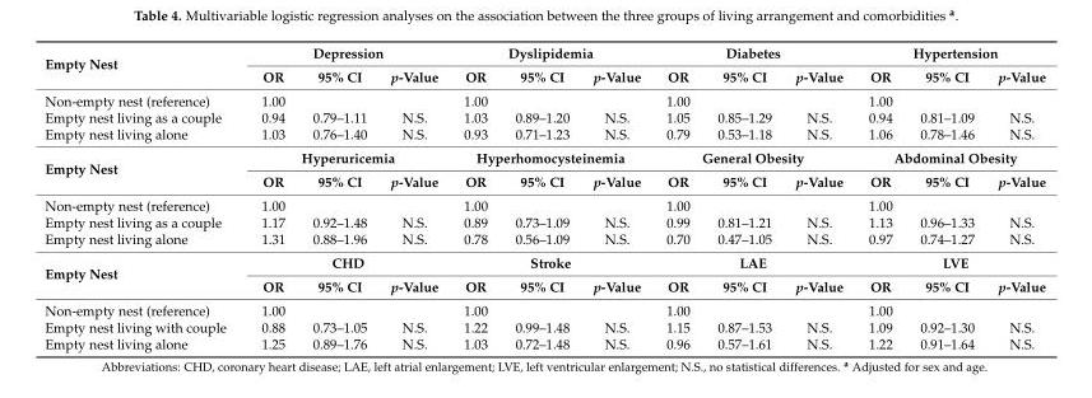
<table><tbody><tr><td rowspan="2">Empty Nest</td><td colspan="3">Depression</td><td colspan="3">Dyslipidemia</td><td colspan="3">Diabetes</td><td colspan="3">Hypertension</td></tr><tr><td>OR</td><td>95% CI</td><td>p-Value</td><td>OR</td><td>95% CI</td><td>p-Value</td><td>OR</td><td>95% CI</td><td>p-Value</td><td>OR</td><td>95% CI</td><td>p-Value</td></tr><tr><td>Non-empty nest (reference)</td><td>1.00</td><td></td><td></td><td>1.00</td><td></td><td></td><td>1.00</td><td></td><td></td><td>1.00</td><td></td><td></td></tr><tr><td>Empty nest living as a couple</td><td>0.94</td><td>0.79–1.11</td><td>N.S.</td><td>1.03</td><td>0.89–1.20</td><td>N.S.</td><td>1.05</td><td>0.85–1.29</td><td>N.S.</td><td>0.94</td><td>0.81–1.09</td><td>N.S.</td></tr><tr><td>Empty nest living alone</td><td>1.03</td><td>0.76–1.40</td><td>N.S.</td><td>0.93</td><td>0.71–1.23</td><td>N.S.</td><td>0.79</td><td>0.53–1.18</td><td>N.S.</td><td>1.06</td><td>0.78–1.46</td><td>N.S.</td></tr><tr><td rowspan="2">Empty Nest</td><td colspan="3">Hyperuricemia</td><td colspan="3">Hyperhomocysteinemia</td><td colspan="3">General Obesity</td><td colspan="3">Abdominal Obesity</td></tr><tr><td>OR</td><td>95% CI</td><td>p-Value</td><td>OR</td><td>95% CI</td><td>p-Value</td><td>OR</td><td>95% CI</td><td>p-Value</td><td>OR</td><td>95% CI</td><td>p-Value</td></tr><tr><td>Non-empty nest (reference)</td><td>1.00</td><td></td><td></td><td>1.00</td><td></td><td></td><td>1.00</td><td></td><td></td><td>1.00</td><td></td><td></td></tr><tr><td>Empty nest living as a couple</td><td>1.17</td><td>0.92–1.48</td><td>N.S.</td><td>0.89</td><td>0.73–1.09</td><td>N.S.</td><td>0.99</td><td>0.81–1.21</td><td>N.S.</td><td>1.13</td><td>0.96–1.33</td><td>N.S.</td></tr><tr><td>Empty nest living alone</td><td>1.31</td><td>0.88–1.96</td><td>N.S.</td><td>0.78</td><td>0.56–1.09</td><td>N.S.</td><td>0.70</td><td>0.47–1.05</td><td>N.S.</td><td>0.97</td><td>0.74–1.27</td><td>N.S.</td></tr><tr><td rowspan="2">Empty Nest</td><td colspan="3">CHD</td><td colspan="3">Stroke</td><td colspan="3">LAE</td><td colspan="3">LVE</td></tr><tr><td>OR</td><td>95% CI</td><td>p-Value</td><td>OR</td><td>95% CI</td><td>p-Value</td><td>OR</td><td>95% CI</td><td>p-Value</td><td>OR</td><td>95% CI</td><td>p-Value</td></tr><tr><td>Non-empty nest (reference)</td><td>1.00</td><td></td><td></td><td>1.00</td><td></td><td></td><td>1.00</td><td></td><td></td><td>1.00</td><td></td><td></td></tr><tr><td>Empty nest living with couple</td><td>0.88</td><td>0.73–1.05</td><td>N.S.</td><td>1.22</td><td>0.99–1.48</td><td>N.S.</td><td>1.15</td><td>0.87–1.53</td><td>N.S.</td><td>1.09</td><td>0.92–1.30</td><td>N.S.</td></tr><tr><td>Empty nest living alone</td><td>1.25</td><td>0.89–1.76</td><td>N.S.</td><td>1.03</td><td>0.72–1.48</td><td>N.S.</td><td>0.96</td><td>0.57–1.61</td><td>N.S.</td><td>1.22</td><td>0.91–1.64</td><td>N.S.</td></tr></tbody></table>